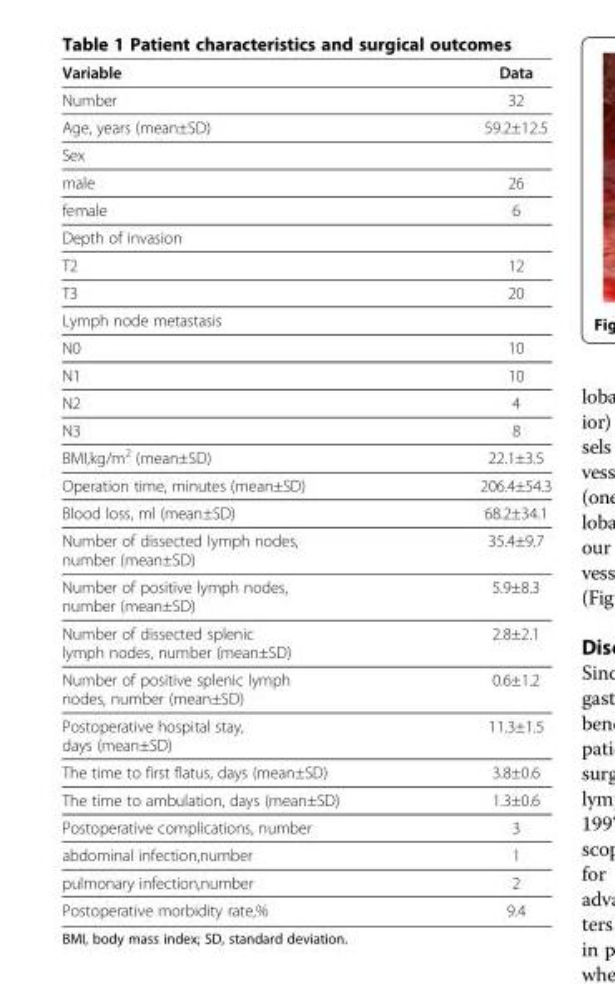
<table><thead><tr><td>Variable</td><td>Data</td></tr></thead><tbody><tr><td>Number</td><td>32</td></tr><tr><td>Age, years (mean±SD)</td><td>59.2±12.5</td></tr><tr><td colspan="2">Sex</td></tr><tr><td>male</td><td>26</td></tr><tr><td>female</td><td>6</td></tr><tr><td colspan="2">Depth of invasion</td></tr><tr><td>T2</td><td>12</td></tr><tr><td>T3</td><td>20</td></tr><tr><td colspan="2">Lymph node metastasis</td></tr><tr><td>N0</td><td>10</td></tr><tr><td>N1</td><td>10</td></tr><tr><td>N2</td><td>4</td></tr><tr><td>N3</td><td>8</td></tr><tr><td>BMI,kg/m<sup>2</sup> (mean±SD)</td><td>22.1±3.5</td></tr><tr><td>Operation time, minutes (mean±SD)</td><td>206.4±54.3</td></tr><tr><td>Blood loss, ml (mean±SD)</td><td>68.2±34.1</td></tr><tr><td>Number of dissected lymph nodes, number (mean±SD)</td><td>35.4±9.7</td></tr><tr><td>Number of positive lymph nodes, number (mean±SD)</td><td>5.9±8.3</td></tr><tr><td>Number of dissected splenic lymph nodes, number (mean±SD)</td><td>2.8±2.1</td></tr><tr><td>Number of positive splenic lymph nodes, number (mean±SD)</td><td>0.6±1.2</td></tr><tr><td>Postoperative hospital stay, days (mean±SD)</td><td>11.3±1.5</td></tr><tr><td>The time to first flatus, days (mean±SD)</td><td>3.8±0.6</td></tr><tr><td>The time to ambulation, days (mean±SD)</td><td>1.3±0.6</td></tr><tr><td>Postoperative complications, number</td><td>3</td></tr><tr><td>abdominal infection,number</td><td>1</td></tr><tr><td>pulmonary infection,number</td><td>2</td></tr><tr><td>Postoperative morbidity rate,%</td><td>9.4</td></tr></tbody></table>